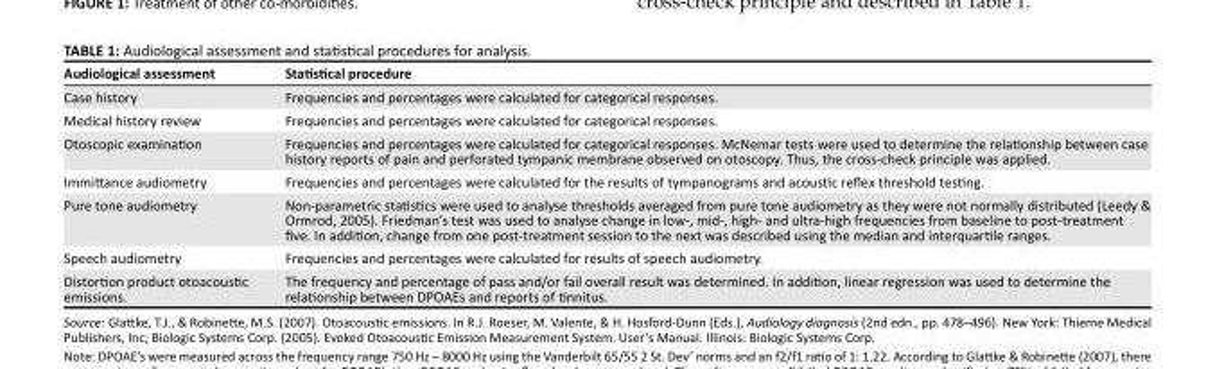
<table><thead><tr><td>Audiological assessment</td><td>Statistical procedure</td></tr></thead><tbody><tr><td>Case history</td><td>Frequencies and percentages were calculated for categorical responses.</td></tr><tr><td>Medical history review</td><td>Frequencies and percentages were calculated for categorical responses.</td></tr><tr><td>Otoscopic examination</td><td>Frequencies and percentages were calculated for categorical responses. McNemar tests were used to determine the relationship between case history reports of pain and perforated tympanic membrane observed on otoscopy. Thus, the cross-check principle was applied.</td></tr><tr><td>Immittance audiometry</td><td>Frequencies and percentages were calculated for the results of tympanograms and acoustic reflex threshold testing.</td></tr><tr><td>Pure tone audiometry</td><td>Non-parametric statistics were used to analyse thresholds averaged from pure tone audiometry as they were not normally distributed (Leedy &amp; Ormrod, 2005). Friedman’s test was used to analyse change in low-, mid-, high- and ultra-high frequencies from baseline to post-treatment five. In addition, change from one post-treatment session to the next was described using the median and interquartile ranges.</td></tr><tr><td>Speech audiometry</td><td>Frequencies and percentages were calculated for results of speech audiometry.</td></tr><tr><td>Distortion product otoacoustic emissions.</td><td>The frequency and percentage of pass and/or fail overall result was determined. In addition, linear regression was used to determine the relationship between DPOAEs and reports of tinnitus.</td></tr></tbody></table>